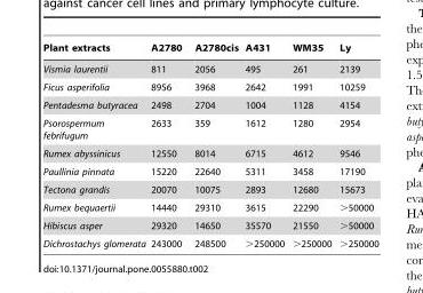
<table><thead><tr><td>Plant extracts</td><td>A2780</td><td>A2780cis</td><td>A431</td><td>WM35</td><td>Ly</td></tr></thead><tbody><tr><td>Vismia laurentii</td><td>811</td><td>2056</td><td>495</td><td>261</td><td>2139</td></tr><tr><td>Ficus asperifolia</td><td>8956</td><td>3968</td><td>2642</td><td>1991</td><td>10259</td></tr><tr><td>Pentadesma butyracea</td><td>2498</td><td>2704</td><td>1004</td><td>1128</td><td>4154</td></tr><tr><td>Psorospermum febrifugum</td><td>2633</td><td>359</td><td>1612</td><td>1280</td><td>2954</td></tr><tr><td>Rumex abyssinicus</td><td>12550</td><td>8014</td><td>6715</td><td>4612</td><td>9546</td></tr><tr><td>Paullinia pinnata</td><td>15220</td><td>22640</td><td>5311</td><td>3458</td><td>17190</td></tr><tr><td>Tectona grandis</td><td>20070</td><td>10075</td><td>2893</td><td>12680</td><td>15673</td></tr><tr><td>Rumex bequaertii</td><td>14440</td><td>29310</td><td>3615</td><td>22290</td><td>&gt;50000</td></tr><tr><td>Hibiscus asper</td><td>29320</td><td>14650</td><td>35570</td><td>21550</td><td>&gt;50000</td></tr><tr><td>Dichrostachys glomerata</td><td>243000</td><td>248500</td><td>&gt;250000</td><td>&gt;250000</td><td>&gt;250000</td></tr></tbody></table>